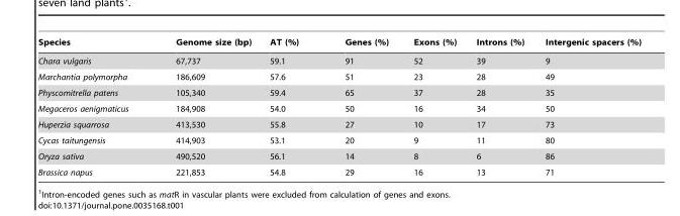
<table><thead><tr><td>Species</td><td>Genome size (bp)</td><td>AT (%)</td><td>Genes (%)</td><td>Exons (%)</td><td>Introns (%)</td><td>Intergenic spacers (%)</td></tr></thead><tbody><tr><td>Chara vulgaris</td><td>67,737</td><td>59.1</td><td>91</td><td>52</td><td>39</td><td>9</td></tr><tr><td>Marchantia polymorpha</td><td>186,609</td><td>57.6</td><td>51</td><td>23</td><td>28</td><td>49</td></tr><tr><td>Physcomitrella patens</td><td>105,340</td><td>59.4</td><td>65</td><td>37</td><td>28</td><td>35</td></tr><tr><td>Megaceros aenigmaticus</td><td>184,908</td><td>54.0</td><td>50</td><td>16</td><td>34</td><td>50</td></tr><tr><td>Huperzia squarrosa</td><td>413,530</td><td>55.8</td><td>27</td><td>10</td><td>17</td><td>73</td></tr><tr><td>Cycas taitungensis</td><td>414,903</td><td>53.1</td><td>20</td><td>9</td><td>11</td><td>80</td></tr><tr><td>Oryza sativa</td><td>490,520</td><td>56.1</td><td>14</td><td>8</td><td>6</td><td>86</td></tr><tr><td>Brassica napus</td><td>221,853</td><td>54.8</td><td>29</td><td>16</td><td>13</td><td>71</td></tr></tbody></table>